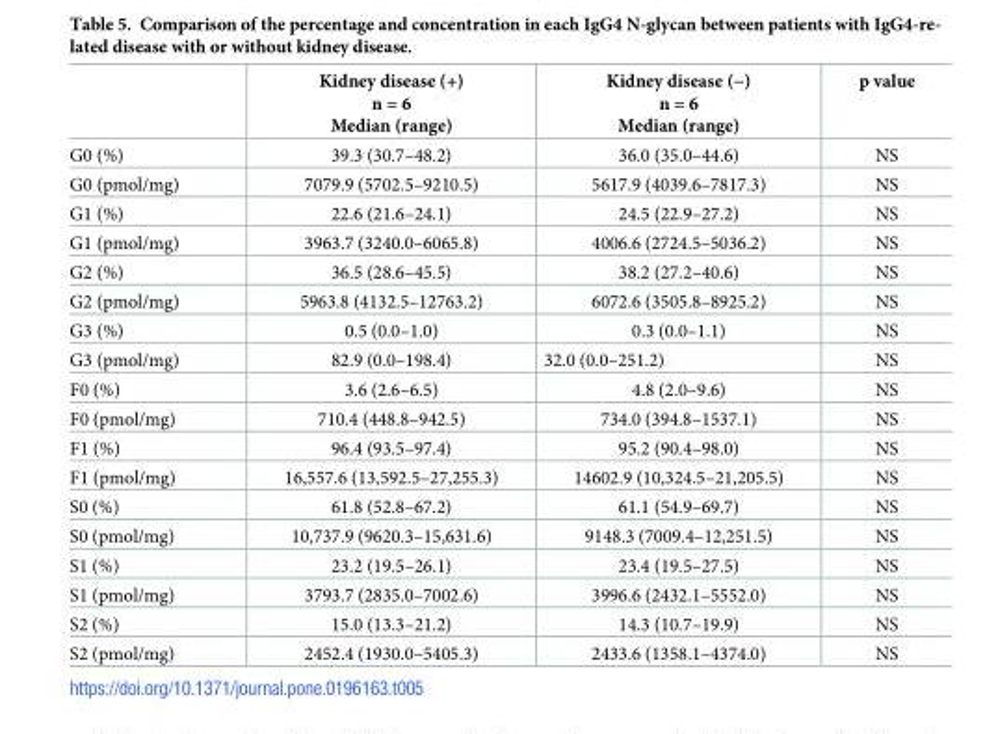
<table><thead><tr><td></td><td>Kidney disease (+) n = 6 Median (range)</td><td>Kidney disease (−) n = 6 Median (range)</td><td>p value</td></tr></thead><tbody><tr><td>G0 (%)</td><td>39.3 (30.7–48.2)</td><td>36.0 (35.0–44.6)</td><td>NS</td></tr><tr><td>G0 (pmol/mg)</td><td>7079.9 (5702.5–9210.5)</td><td>5617.9 (4039.6–7817.3)</td><td>NS</td></tr><tr><td>G1 (%)</td><td>22.6 (21.6–24.1)</td><td>24.5 (22.9–27.2)</td><td>NS</td></tr><tr><td>G1 (pmol/mg)</td><td>3963.7 (3240.0–6065.8)</td><td>4006.6 (2724.5–5036.2)</td><td>NS</td></tr><tr><td>G2 (%)</td><td>36.5 (28.6–45.5)</td><td>38.2 (27.2–40.6)</td><td>NS</td></tr><tr><td>G2 (pmol/mg)</td><td>5963.8 (4132.5–12763.2)</td><td>6072.6 (3505.8–8925.2)</td><td>NS</td></tr><tr><td>G3 (%)</td><td>0.5 (0.0–1.0)</td><td>0.3 (0.0–1.1)</td><td>NS</td></tr><tr><td>G3 (pmol/mg)</td><td>82.9 (0.0–198.4)</td><td>32.0 (0.0–251.2)</td><td>NS</td></tr><tr><td>F0 (%)</td><td>3.6 (2.6–6.5)</td><td>4.8 (2.0–9.6)</td><td>NS</td></tr><tr><td>F0 (pmol/mg)</td><td>710.4 (448.8–942.5)</td><td>734.0 (394.8–1537.1)</td><td>NS</td></tr><tr><td>F1 (%)</td><td>96.4 (93.5–97.4)</td><td>95.2 (90.4–98.0)</td><td>NS</td></tr><tr><td>F1 (pmol/mg)</td><td>16,557.6 (13,592.5–27,255.3)</td><td>14602.9 (10,324.5–21,205.5)</td><td>NS</td></tr><tr><td>S0 (%)</td><td>61.8 (52.8–67.2)</td><td>61.1 (54.9–69.7)</td><td>NS</td></tr><tr><td>S0 (pmol/mg)</td><td>10,737.9 (9620.3–15,631.6)</td><td>9148.3 (7009.4–12,251.5)</td><td>NS</td></tr><tr><td>S1 (%)</td><td>23.2 (19.5–26.1)</td><td>23.4 (19.5–27.5)</td><td>NS</td></tr><tr><td>S1 (pmol/mg)</td><td>3793.7 (2835.0–7002.6)</td><td>3996.6 (2432.1–5552.0)</td><td>NS</td></tr><tr><td>S2 (%)</td><td>15.0 (13.3–21.2)</td><td>14.3 (10.7–19.9)</td><td>NS</td></tr><tr><td>S2 (pmol/mg)</td><td>2452.4 (1930.0–5405.3)</td><td>2433.6 (1358.1–4374.0)</td><td>NS</td></tr></tbody></table>